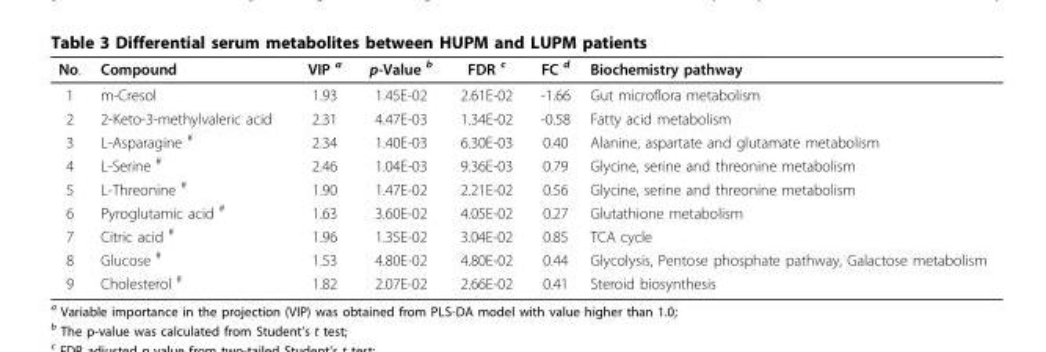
<table><thead><tr><td>No.</td><td>Compound</td><td>VIP <sup>a</sup></td><td>p-Value <sup>b</sup></td><td>FDR <sup>c</sup></td><td>FC <sup>d</sup></td><td>Biochemistry pathway</td></tr></thead><tbody><tr><td>1</td><td>m-Cresol</td><td>1.93</td><td>1.45E-02</td><td>2.61E-02</td><td>-1.66</td><td>Gut microflora metabolism</td></tr><tr><td>2</td><td>2-Keto-3-methylvaleric acid</td><td>2.31</td><td>4.47E-03</td><td>1.34E-02</td><td>-0.58</td><td>Fatty acid metabolism</td></tr><tr><td>3</td><td>L-Asparagine <sup>#</sup></td><td>2.34</td><td>1.40E-03</td><td>6.30E-03</td><td>0.40</td><td>Alanine, aspartate and glutamate metabolism</td></tr><tr><td>4</td><td>L-Serine <sup>#</sup></td><td>2.46</td><td>1.04E-03</td><td>9.36E-03</td><td>0.79</td><td>Glycine, serine and threonine metabolism</td></tr><tr><td>5</td><td>L-Threonine <sup>#</sup></td><td>1.90</td><td>1.47E-02</td><td>2.21E-02</td><td>0.56</td><td>Glycine, serine and threonine metabolism</td></tr><tr><td>6</td><td>Pyroglutamic acid <sup>#</sup></td><td>1.63</td><td>3.60E-02</td><td>4.05E-02</td><td>0.27</td><td>Glutathione metabolism</td></tr><tr><td>7</td><td>Citric acid <sup>#</sup></td><td>1.96</td><td>1.35E-02</td><td>3.04E-02</td><td>0.85</td><td>TCA cycle</td></tr><tr><td>8</td><td>Glucose <sup>#</sup></td><td>1.53</td><td>4.80E-02</td><td>4.80E-02</td><td>0.44</td><td>Glycolysis, Pentose phosphate pathway, Galactose metabolism</td></tr><tr><td>9</td><td>Cholesterol <sup>#</sup></td><td>1.82</td><td>2.07E-02</td><td>2.66E-02</td><td>0.41</td><td>Steroid biosynthesis</td></tr></tbody></table>